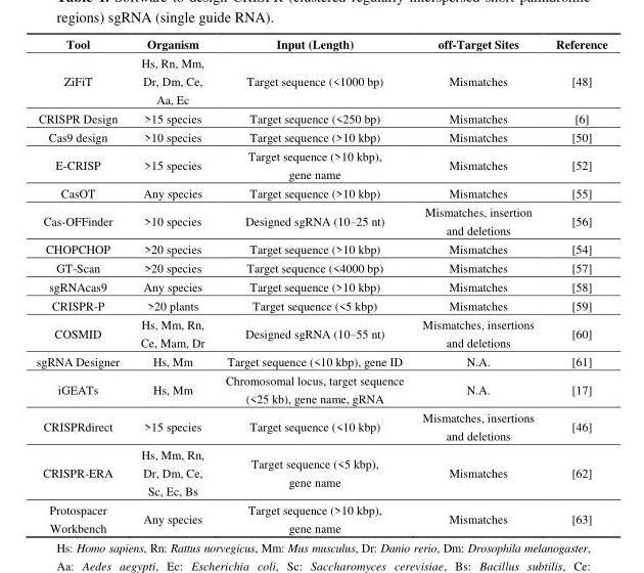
<table><thead><tr><td>Tool</td><td>Organism</td><td>Input (Length)</td><td>off-Target Sites</td><td>Reference</td></tr></thead><tbody><tr><td>ZiFiT</td><td>Hs, Rn, Mm, Dr, Dm, Ce, Aa, Ec</td><td>Target sequence (&lt;1000 bp)</td><td>Mismatches</td><td>[48]</td></tr><tr><td>CRISPR Design</td><td>&gt;15 species</td><td>Target sequence (&lt;250 bp)</td><td>Mismatches</td><td>[6]</td></tr><tr><td>Cas9 design</td><td>&gt;10 species</td><td>Target sequence (&gt;10 kbp)</td><td>Mismatches</td><td>[50]</td></tr><tr><td>E-CRISP</td><td>&gt;15 species</td><td>Target sequence (&gt;10 kbp), gene name</td><td>Mismatches</td><td>[52]</td></tr><tr><td>CasOT</td><td>Any species</td><td>Target sequence (&gt;10 kbp)</td><td>Mismatches</td><td>[55]</td></tr><tr><td>Cas-OFFinder</td><td>&gt;10 species</td><td>Designed sgRNA (10–25 nt)</td><td>Mismatches, insertion and deletions</td><td>[56]</td></tr><tr><td>CHOPCHOP</td><td>&gt;20 species</td><td>Target sequence (&gt;10 kbp)</td><td>Mismatches</td><td>[54]</td></tr><tr><td>GT-Scan</td><td>&gt;20 species</td><td>Target sequence (&lt;4000 bp)</td><td>Mismatches</td><td>[57]</td></tr><tr><td>sgRNAcas9</td><td>Any species</td><td>Target sequence (&gt;10 kbp)</td><td>Mismatches</td><td>[58]</td></tr><tr><td>CRISPR-P</td><td>&gt;20 plants</td><td>Target sequence (&lt;5 kbp)</td><td>Mismatches</td><td>[59]</td></tr><tr><td>COSMID</td><td>Hs, Mm, Rn, Ce, Mam, Dr</td><td>Designed sgRNA (10–55 nt)</td><td>Mismatches, insertions and deletions</td><td>[60]</td></tr><tr><td>sgRNA Designer</td><td>Hs, Mm</td><td>Target sequence (&lt;10 kbp), gene ID</td><td>N.A.</td><td>[61]</td></tr><tr><td>iGEATs</td><td>Hs, Mm</td><td>Chromosomal locus, target sequence (&lt;25 kb), gene name, gRNA</td><td>N.A.</td><td>[17]</td></tr><tr><td>CRISPRdirect</td><td>&gt;15 species</td><td>Target sequence (&lt;10 kbp)</td><td>Mismatches, insertions and deletions</td><td>[46]</td></tr><tr><td>CRISPR-ERA</td><td>Hs, Mm, Rn, Dr, Dm, Ce, Sc, Ec, Bs</td><td>Target sequence (&lt;5 kbp), gene name</td><td>Mismatches</td><td>[62]</td></tr><tr><td>Protospacer Workbench</td><td>Any species</td><td>Target sequence (&gt;10 kbp), gene name</td><td>Mismatches</td><td>[63]</td></tr></tbody></table>